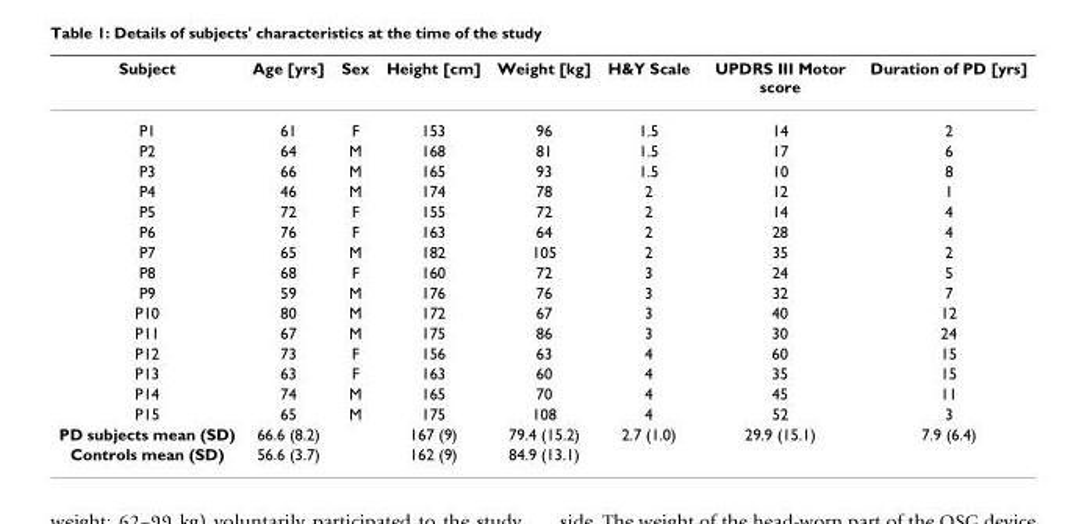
<table><thead><tr><td>Subject</td><td>Age [yrs]</td><td>Sex</td><td>Height [cm]</td><td>Weight [kg]</td><td>H&amp;Y Scale</td><td>UPDRS III Motor score</td><td>Duration of PD [yrs]</td></tr></thead><tbody><tr><td>P1</td><td>61</td><td>F</td><td>153</td><td>96</td><td>1.5</td><td>14</td><td>2</td></tr><tr><td>P2</td><td>64</td><td>M</td><td>168</td><td>81</td><td>1.5</td><td>17</td><td>6</td></tr><tr><td>P3</td><td>66</td><td>M</td><td>165</td><td>93</td><td>1.5</td><td>10</td><td>8</td></tr><tr><td>P4</td><td>46</td><td>M</td><td>174</td><td>78</td><td>2</td><td>12</td><td>1</td></tr><tr><td>P5</td><td>72</td><td>F</td><td>155</td><td>72</td><td>2</td><td>14</td><td>4</td></tr><tr><td>P6</td><td>76</td><td>F</td><td>163</td><td>64</td><td>2</td><td>28</td><td>4</td></tr><tr><td>P7</td><td>65</td><td>M</td><td>182</td><td>105</td><td>2</td><td>35</td><td>2</td></tr><tr><td>P8</td><td>68</td><td>F</td><td>160</td><td>72</td><td>3</td><td>24</td><td>5</td></tr><tr><td>P9</td><td>59</td><td>M</td><td>176</td><td>76</td><td>3</td><td>32</td><td>7</td></tr><tr><td>P10</td><td>80</td><td>M</td><td>172</td><td>67</td><td>3</td><td>40</td><td>12</td></tr><tr><td>P11</td><td>67</td><td>M</td><td>175</td><td>86</td><td>3</td><td>30</td><td>24</td></tr><tr><td>P12</td><td>73</td><td>F</td><td>156</td><td>63</td><td>4</td><td>60</td><td>15</td></tr><tr><td>P13</td><td>63</td><td>F</td><td>163</td><td>60</td><td>4</td><td>35</td><td>15</td></tr><tr><td>P14</td><td>74</td><td>M</td><td>165</td><td>70</td><td>4</td><td>45</td><td>11</td></tr><tr><td>P15</td><td>65</td><td>M</td><td>175</td><td>108</td><td>4</td><td>52</td><td>3</td></tr><tr><td>PD subjects mean (SD)</td><td>66.6 (8.2)</td><td></td><td>167 (9)</td><td>79.4 (15.2)</td><td>2.7 (1.0)</td><td>29.9 (15.1)</td><td>7.9 (6.4)</td></tr><tr><td>Controls mean (SD)</td><td>56.6 (3.7)</td><td></td><td>162 (9)</td><td>84.9 (13.1)</td><td></td><td></td><td></td></tr></tbody></table>